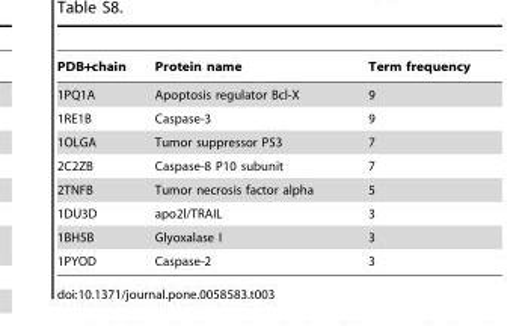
<table><thead><tr><td>PDB+chain</td><td>Protein name</td><td>Term frequency</td></tr></thead><tbody><tr><td>1PQ1A</td><td>Apoptosis regulator Bcl-X</td><td>9</td></tr><tr><td>1RE1B</td><td>Caspase-3</td><td>9</td></tr><tr><td>1OLGA</td><td>Tumor suppressor P53</td><td>7</td></tr><tr><td>2C2ZB</td><td>Caspase-8 P10 subunit</td><td>7</td></tr><tr><td>2TNFB</td><td>Tumor necrosis factor alpha</td><td>5</td></tr><tr><td>1DU3D</td><td>apo2l/TRAIL</td><td>3</td></tr><tr><td>1BH5B</td><td>Glyoxalase I</td><td>3</td></tr><tr><td>1PYOD</td><td>Caspase-2</td><td>3</td></tr></tbody></table>